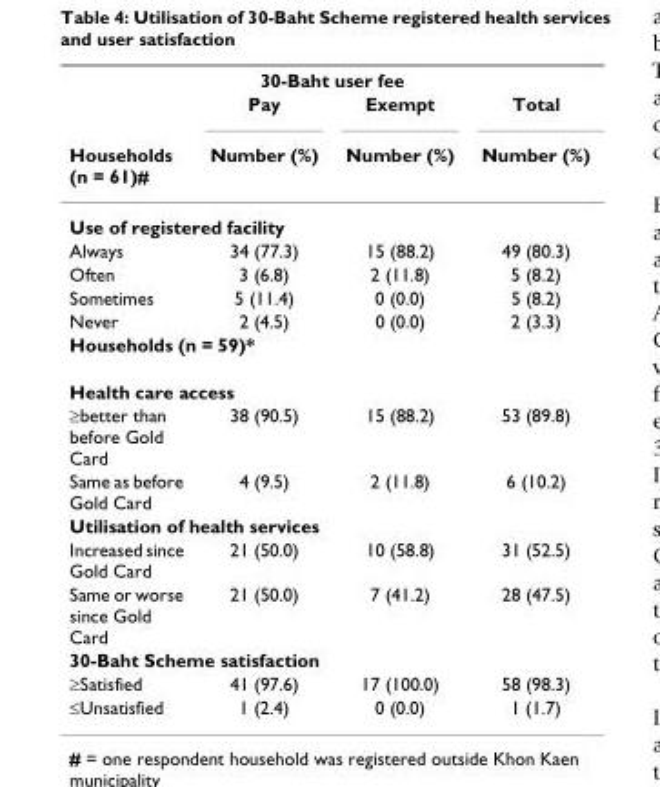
<table><thead><tr><td rowspan="3">Households (n = 61)#</td><td colspan="2">30-Baht user fee</td><td rowspan="3">Total Number (%)</td></tr><tr><td rowspan="2">Pay Number (%)</td><td rowspan="2">Exempt Number (%)</td></tr><tr></tr></thead><tbody><tr><td colspan="4">Use of registered facility</td></tr><tr><td>Always</td><td>34 (77.3)</td><td>15 (88.2)</td><td>49 (80.3)</td></tr><tr><td>Often</td><td>3 (6.8)</td><td>2 (11.8)</td><td>5 (8.2)</td></tr><tr><td>Sometimes</td><td>5 (11.4)</td><td>0 (0.0)</td><td>5 (8.2)</td></tr><tr><td>Never</td><td>2 (4.5)</td><td>0 (0.0)</td><td>2 (3.3)</td></tr><tr><td colspan="4">Households (n = 59)*</td></tr><tr><td colspan="4">Health care access</td></tr><tr><td>≥better than before Gold Card</td><td>38 (90.5)</td><td>15 (88.2)</td><td>53 (89.8)</td></tr><tr><td>Same as before Gold Card</td><td>4 (9.5)</td><td>2 (11.8)</td><td>6 (10.2)</td></tr><tr><td colspan="4">Utilisation of health services</td></tr><tr><td>Increased since Gold Card</td><td>21 (50.0)</td><td>10 (58.8)</td><td>31 (52.5)</td></tr><tr><td>Same or worse since Gold Card</td><td>21 (50.0)</td><td>7 (41.2)</td><td>28 (47.5)</td></tr><tr><td colspan="4">30-Baht Scheme satisfaction</td></tr><tr><td>≥Satisfied</td><td>41 (97.6)</td><td>17 (100.0)</td><td>58 (98.3)</td></tr><tr><td>≤Unsatisfied</td><td>1 (2.4)</td><td>0 (0.0)</td><td>1 (1.7)</td></tr></tbody></table>